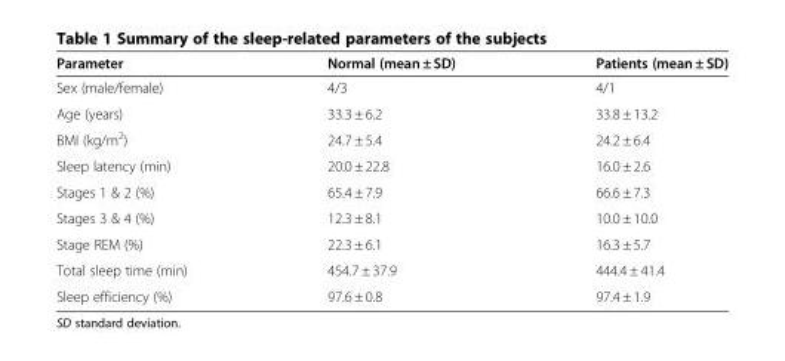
<table><thead><tr><td>Parameter</td><td>Normal (mean ± SD)</td><td>Patients (mean ± SD)</td></tr></thead><tbody><tr><td>Sex (male/female)</td><td>4/3</td><td>4/1</td></tr><tr><td>Age (years)</td><td>33.3 ± 6.2</td><td>33.8 ± 13.2</td></tr><tr><td>BMI (kg/m<sup>2</sup>)</td><td>24.7 ± 5.4</td><td>24.2 ± 6.4</td></tr><tr><td>Sleep latency (min)</td><td>20.0 ± 22.8</td><td>16.0 ± 2.6</td></tr><tr><td>Stages 1 &amp; 2 (%)</td><td>65.4 ± 7.9</td><td>66.6 ± 7.3</td></tr><tr><td>Stages 3 &amp; 4 (%)</td><td>12.3 ± 8.1</td><td>10.0 ± 10.0</td></tr><tr><td>Stage REM (%)</td><td>22.3 ± 6.1</td><td>16.3 ± 5.7</td></tr><tr><td>Total sleep time (min)</td><td>454.7 ± 37.9</td><td>444.4 ± 41.4</td></tr><tr><td>Sleep efficiency (%)</td><td>97.6 ± 0.8</td><td>97.4 ± 1.9</td></tr></tbody></table>